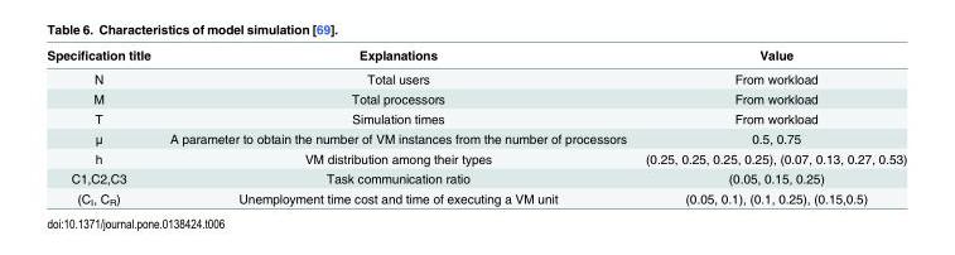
<table><thead><tr><td>Specification title</td><td>Explanations</td><td>Value</td></tr></thead><tbody><tr><td>N</td><td>Total users</td><td>From workload</td></tr><tr><td>M</td><td>Total processors</td><td>From workload</td></tr><tr><td>T</td><td>Simulation times</td><td>From workload</td></tr><tr><td>μ</td><td>A parameter to obtain the number of VM instances from the number of processors</td><td>0.5, 0.75</td></tr><tr><td>h</td><td>VM distribution among their types</td><td>(0.25, 0.25, 0.25, 0.25), (0.07, 0.13, 0.27, 0.53)</td></tr><tr><td>C1,C2,C3</td><td>Task communication ratio</td><td>(0.05, 0.15, 0.25)</td></tr><tr><td>(C<sub>I</sub>, C<sub>R</sub>)</td><td>Unemployment time cost and time of executing a VM unit</td><td>(0.05, 0.1), (0.1, 0.25), (0.15,0.5)</td></tr></tbody></table>